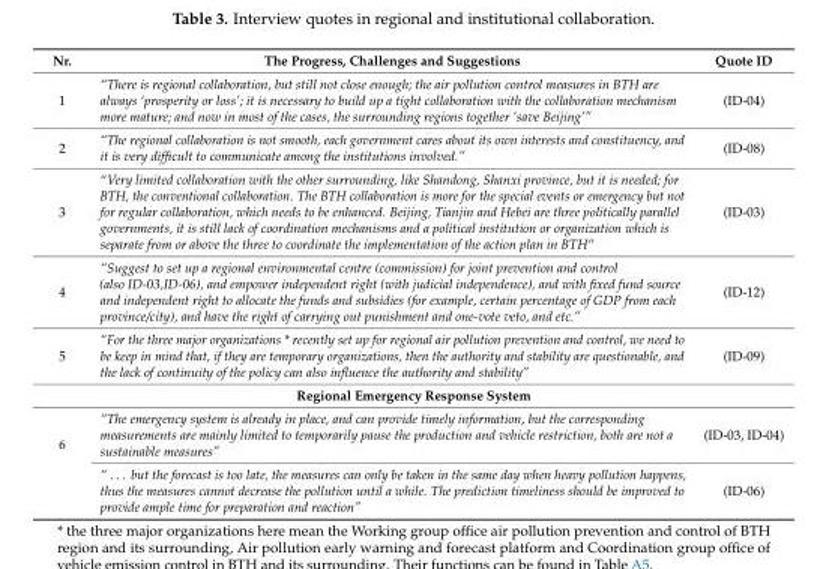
<table><thead><tr><td>Nr.</td><td>The Progress, Challenges and Suggestions</td><td>Quote ID</td></tr></thead><tbody><tr><td>1</td><td>“There is regional collaboration, but still not close enough; the air pollution control measures in BTH are always ‘prosperity or loss’; it is necessary to build up a tight collaboration with the collaboration mechanism more mature; and now in most of the cases, the surrounding regions together ‘save Beijing’”</td><td>(ID-04)</td></tr><tr><td>2</td><td>“The regional collaboration is not smooth, each government cares about its own interests and constituency, and it is very difficult to communicate among the institutions involved.”</td><td>(ID-08)</td></tr><tr><td>3</td><td>“Very limited collaboration with the other surrounding, like Shandong, Shanxi province, but it is needed; for BTH, the conventional collaboration. The BTH collaboration is more for the special events or emergency but not for regular collaboration, which needs to be enhanced. Beijing, Tianjin and Hebei are three politically parallel governments, it is still lack of coordination mechanisms and a political institution or organization which is separate from or above the three to coordinate the implementation of the action plan in BTH”</td><td>(ID-03)</td></tr><tr><td>4</td><td>“Suggest to set up a regional environmental centre (commission) for joint prevention and control (also ID-03,ID-06), and empower independent right (with judicial independence), and with fixed fund source and independent right to allocate the funds and subsidies (for example, certain percentage of GDP from each province/city), and have the right of carrying out punishment and one-vote veto, and etc.”</td><td>(ID-12)</td></tr><tr><td>5</td><td>“For the three major organizations * recently set up for regional air pollution prevention and control, we need to be keep in mind that, if they are temporary organizations, then the authority and stability are questionable, and the lack of continuity of the policy can also influence the authority and stability”</td><td>(ID-09)</td></tr><tr><td colspan="3">Regional Emergency Response System</td></tr><tr><td rowspan="2">6</td><td>“The emergency system is already in place, and can provide timely information, but the corresponding measurements are mainly limited to temporarily pause the production and vehicle restriction, both are not a sustainable measures”</td><td>(ID-03, ID-04)</td></tr><tr><td>“ . . . but the forecast is too late, the measures can only be taken in the same day when heavy pollution happens, thus the measures cannot decrease the pollution until a while. The prediction timeliness should be improved to provide ample time for preparation and reaction”</td><td>(ID-06)</td></tr></tbody></table>